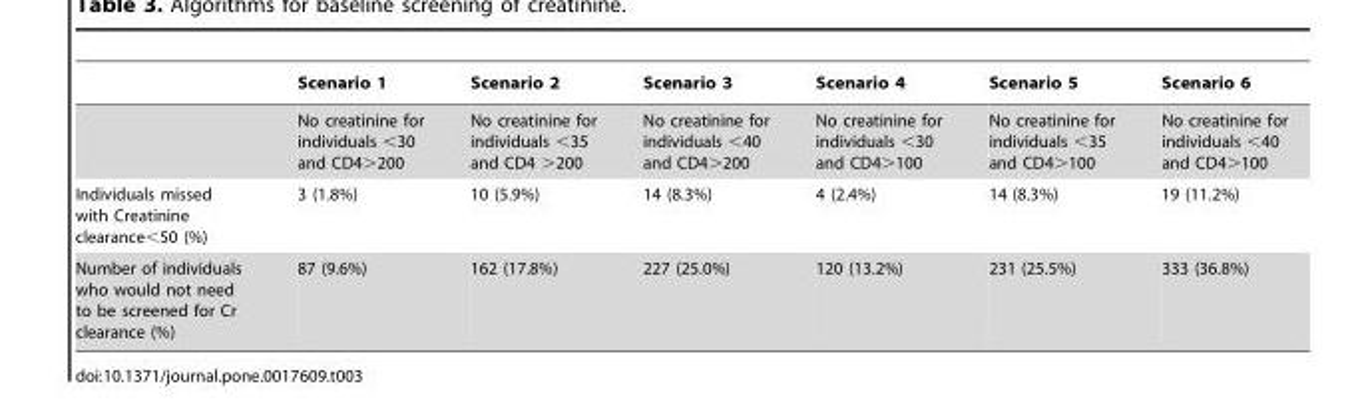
<table><thead><tr><td></td><td>Scenario 1</td><td>Scenario 2</td><td>Scenario 3</td><td>Scenario 4</td><td>Scenario 5</td><td>Scenario 6</td></tr></thead><tbody><tr><td></td><td>No creatinine for individuals &lt;30 and CD4&gt;200</td><td>No creatinine for individuals &lt;35 and CD4 &gt;200</td><td>No creatinine for individuals &lt;40 and CD4&gt;200</td><td>No creatinine for individuals &lt;30 and CD4&gt;100</td><td>No creatinine for individuals &lt;35 and CD4&gt;100</td><td>No creatinine for individuals &lt;40 and CD4&gt;100</td></tr><tr><td>Individuals missed with Creatinine clearance&lt;50 (%)</td><td>3 (1.8%)</td><td>10 (5.9%)</td><td>14 (8.3%)</td><td>4 (2.4%)</td><td>14 (8.3%)</td><td>19 (11.2%)</td></tr><tr><td>Number of individuals who would not need to be screened for Cr clearance (%)</td><td>87 (9.6%)</td><td>162 (17.8%)</td><td>227 (25.0%)</td><td>120 (13.2%)</td><td>231 (25.5%)</td><td>333 (36.8%)</td></tr></tbody></table>